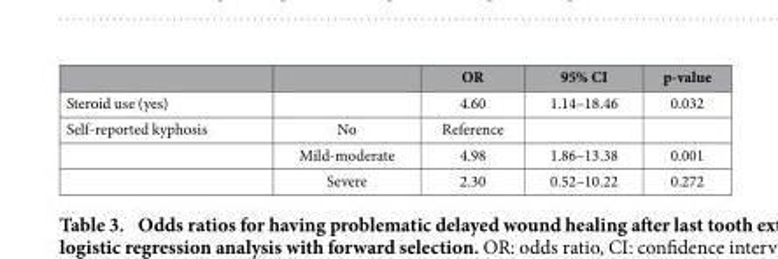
<table><thead><tr><td></td><td></td><td>OR</td><td>95% CI</td><td>p-value</td></tr></thead><tbody><tr><td>Steroid use (yes)</td><td></td><td>4.60</td><td>1.14–18.46</td><td>0.032</td></tr><tr><td rowspan="3">Self-reported kyphosis</td><td>No</td><td>Reference</td><td></td><td></td></tr><tr><td>Mild-moderate</td><td>4.98</td><td>1.86–13.38</td><td>0.001</td></tr><tr><td>Severe</td><td>2.30</td><td>0.52–10.22</td><td>0.272</td></tr></tbody></table>